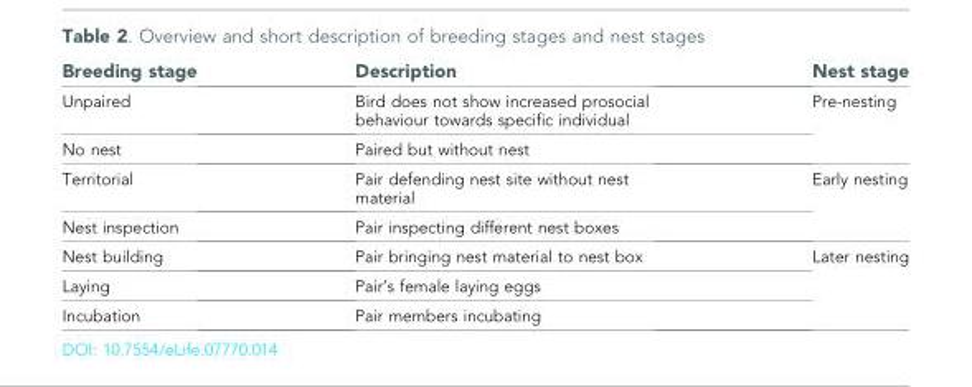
<table><thead><tr><td>Breeding stage</td><td>Description</td><td>Nest stage</td></tr></thead><tbody><tr><td>Unpaired</td><td>Bird does not show increased prosocial behaviour towards specific individual</td><td rowspan="2">Pre-nesting</td></tr><tr><td>No nest</td><td>Paired but without nest</td></tr><tr><td>Territorial</td><td>Pair defending nest site without nest material</td><td rowspan="2">Early nesting</td></tr><tr><td>Nest inspection</td><td>Pair inspecting different nest boxes</td></tr><tr><td>Nest building</td><td>Pair bringing nest material to nest box</td><td rowspan="3">Later nesting</td></tr><tr><td>Laying</td><td>Pair’s female laying eggs</td></tr><tr><td>Incubation</td><td>Pair members incubating</td></tr></tbody></table>